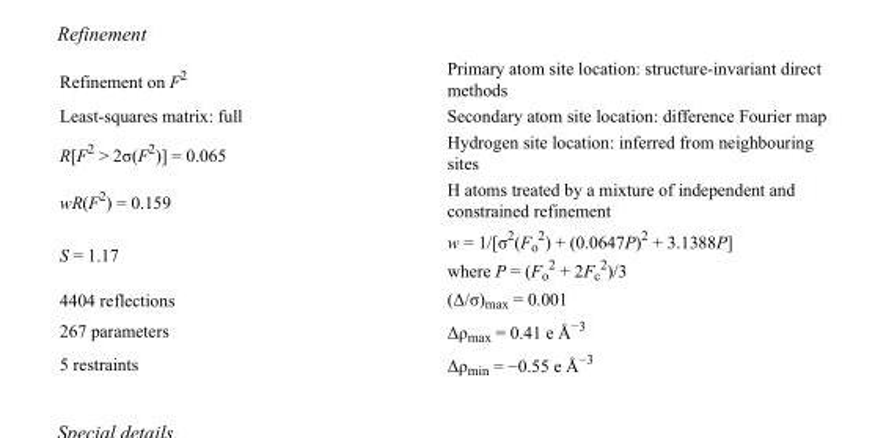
<table><tbody><tr><td>Refinement on F<sup>2</sup></td><td>Primary atom site location: structure-invariant direct methods</td></tr><tr><td>Least-squares matrix: full</td><td>Secondary atom site location: difference Fourier map</td></tr><tr><td>R[F<sup>2</sup> &gt; 2σ(F<sup>2</sup>)] = 0.065</td><td>Hydrogen site location: inferred from neighbouring sites</td></tr><tr><td>wR(F<sup>2</sup>) = 0.159</td><td>H atoms treated by a mixture of independent and constrained refinement</td></tr><tr><td>S = 1.17</td><td>w = 1/[σ<sup>2</sup>(F<sub>o</sub> <sup>2</sup>) + (0.0647P)<sup>2</sup> + 3.1388P] where P = (F<sub>o</sub> <sup>2</sup> + 2F<sub>c</sub> <sup>2</sup>)/3</td></tr><tr><td>4404 reflections</td><td>(Δ/σ)<sub>max</sub> = 0.001</td></tr><tr><td>267 parameters</td><td>Δρ<sub>max</sub> = 0.41 e Å<sup>−3</sup></td></tr><tr><td>5 restraints</td><td>Δρ<sub>min</sub> = −0.55 e Å<sup>−3</sup></td></tr></tbody></table>